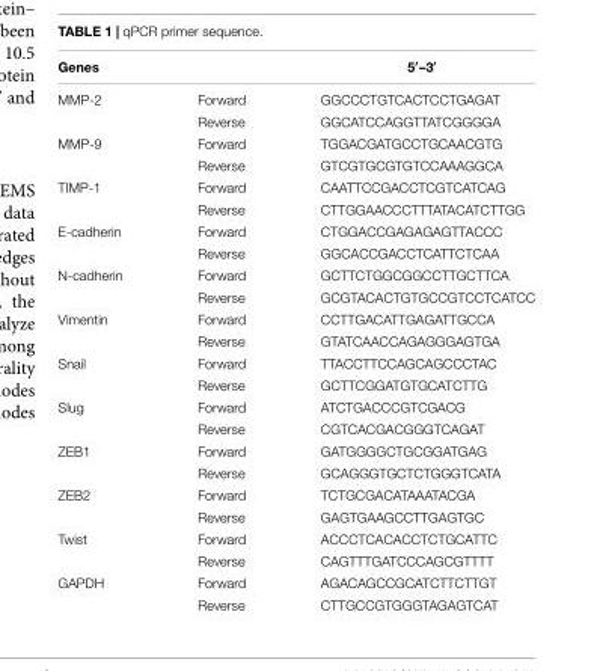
<table><thead><tr><td>Genes</td><td></td><td>5′–3′</td></tr></thead><tbody><tr><td rowspan="2">MMP-2</td><td>Forward</td><td>GGCCCTGTCACTCCTGAGAT</td></tr><tr><td>Reverse</td><td>GGCATCCAGGTTATCGGGGA</td></tr><tr><td rowspan="2">MMP-9</td><td>Forward</td><td>TGGACGATGCCTGCAACGTG</td></tr><tr><td>Reverse</td><td>GTCGTGCGTGTCCAAAGGCA</td></tr><tr><td rowspan="2">TIMP-1</td><td>Forward</td><td>CAATTCCGACCTCGTCATCAG</td></tr><tr><td>Reverse</td><td>CTTGGAACCCTTTATACATCTTGG</td></tr><tr><td rowspan="2">E-cadherin</td><td>Forward</td><td>CTGGACCGAGAGAGTTACCC</td></tr><tr><td>Reverse</td><td>GGCACCGACCTCATTCTCAA</td></tr><tr><td rowspan="2">N-cadherin</td><td>Forward</td><td>GCTTCTGGCGGCCTTGCTTCA</td></tr><tr><td>Reverse</td><td>GCGTACACTGTGCCGTCCTCATCC</td></tr><tr><td rowspan="2">Vimentin</td><td>Forward</td><td>CCTTGACATTGAGATTGCCA</td></tr><tr><td>Reverse</td><td>GTATCAACCAGAGGGAGTGA</td></tr><tr><td rowspan="2">Snail</td><td>Forward</td><td>TTACCTTCCAGCAGCCCTAC</td></tr><tr><td>Reverse</td><td>GCTTCGGATGTGCATCTTG</td></tr><tr><td rowspan="2">Slug</td><td>Forward</td><td>ATCTGACCCGTCGACG</td></tr><tr><td>Reverse</td><td>CGTCACGACGGGTCAGAT</td></tr><tr><td rowspan="2">ZEB1</td><td>Forward</td><td>GATGGGGCTGCGGATGAG</td></tr><tr><td>Reverse</td><td>GCAGGGTGCTCTGGGTCATA</td></tr><tr><td rowspan="2">ZEB2</td><td>Forward</td><td>TCTGCGACATAAATACGA</td></tr><tr><td>Reverse</td><td>GAGTGAAGCCTTGAGTGC</td></tr><tr><td rowspan="2">Twist</td><td>Forward</td><td>ACCCTCACACCTCTGCATTC</td></tr><tr><td>Reverse</td><td>CAGTTTGATCCCAGCGTTTT</td></tr><tr><td rowspan="2">GAPDH</td><td>Forward</td><td>AGACAGCCGCATCTTCTTGT</td></tr><tr><td>Reverse</td><td>CTTGCCGTGGGTAGAGTCAT</td></tr></tbody></table>